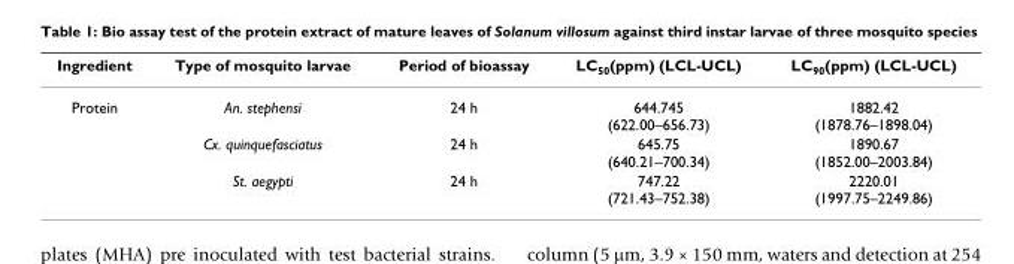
<table><thead><tr><td>Ingredient</td><td>Type of mosquito larvae</td><td>Period of bioassay</td><td>LC<sub>50</sub>(ppm) (LCL-UCL)</td><td>LC<sub>90</sub>(ppm) (LCL-UCL)</td></tr></thead><tbody><tr><td rowspan="3">Protein</td><td>An. stephensi</td><td>24 h</td><td>644.745 (622.00–656.73)</td><td>1882.42 (1878.76–1898.04)</td></tr><tr><td>Cx. quinquefasciatus</td><td>24 h</td><td>645.75 (640.21–700.34)</td><td>1890.67 (1852.00–2003.84)</td></tr><tr><td>St. aegypti</td><td>24 h</td><td>747.22 (721.43–752.38)</td><td>2220.01 (1997.75–2249.86)</td></tr></tbody></table>